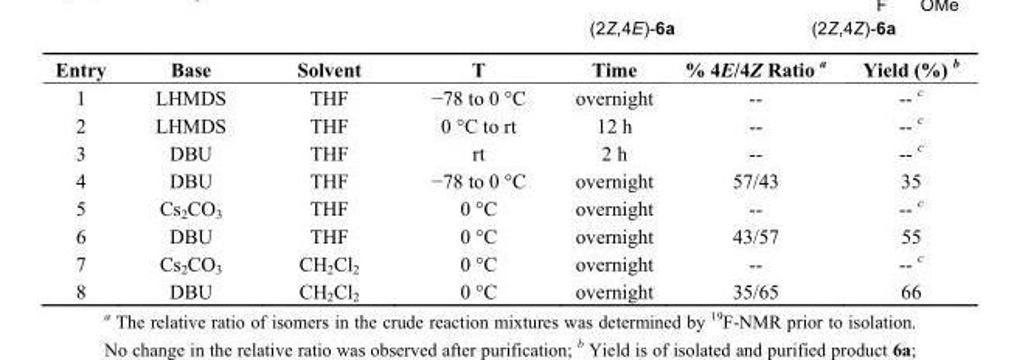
<table><thead><tr><td>Entry</td><td>Base</td><td>Solvent</td><td>T</td><td>Time</td><td>% 4E/4Z Ratio <sup>a</sup></td><td>Yield (%) <sup>b</sup></td></tr></thead><tbody><tr><td>1</td><td>LHMDS</td><td>THF</td><td>−78 to 0 °C</td><td>overnight</td><td>--</td><td>-- <sup>c</sup></td></tr><tr><td>2</td><td>LHMDS</td><td>THF</td><td>0 °C to rt</td><td>12 h</td><td>--</td><td>-- <sup>c</sup></td></tr><tr><td>3</td><td>DBU</td><td>THF</td><td>rt</td><td>2 h</td><td>--</td><td>-- <sup>c</sup></td></tr><tr><td>4</td><td>DBU</td><td>THF</td><td>−78 to 0 °C</td><td>overnight</td><td>57/43</td><td>35</td></tr><tr><td>5</td><td>Cs<sub>2</sub>CO<sub>3</sub></td><td>THF</td><td>0 °C</td><td>overnight</td><td>--</td><td>-- <sup>c</sup></td></tr><tr><td>6</td><td>DBU</td><td>THF</td><td>0 °C</td><td>overnight</td><td>43/57</td><td>55</td></tr><tr><td>7</td><td>Cs<sub>2</sub>CO<sub>3</sub></td><td>CH<sub>2</sub>Cl<sub>2</sub></td><td>0 °C</td><td>overnight</td><td>--</td><td>-- <sup>c</sup></td></tr><tr><td>8</td><td>DBU</td><td>CH<sub>2</sub>Cl<sub>2</sub></td><td>0 °C</td><td>overnight</td><td>35/65</td><td>66</td></tr></tbody></table>